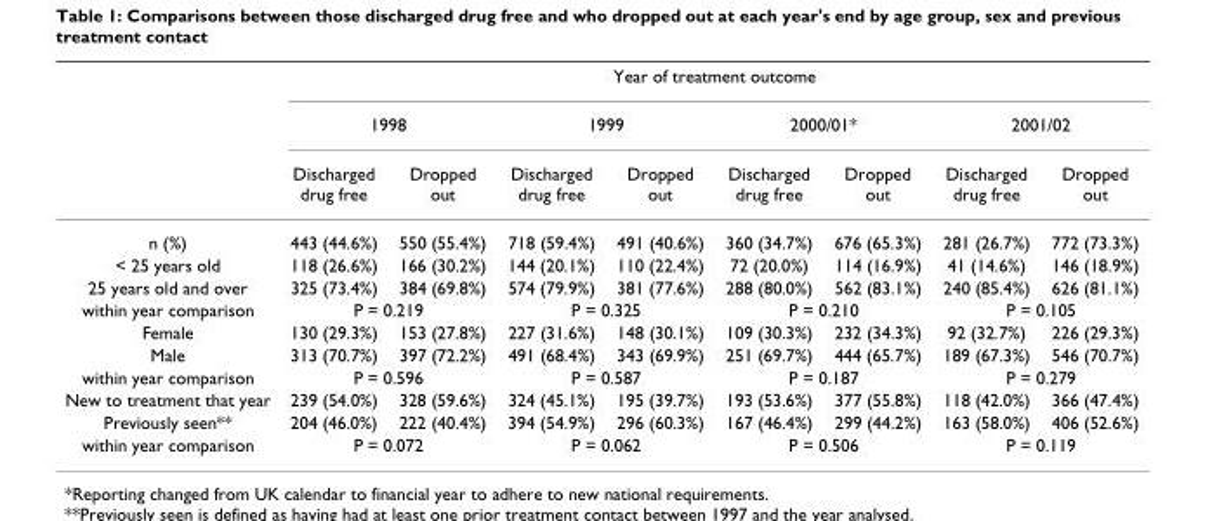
<table><thead><tr><td rowspan="3"></td><td colspan="8">Year of treatment outcome</td></tr><tr><td colspan="2">1998</td><td colspan="2">1999</td><td colspan="2">2000/01*</td><td colspan="2">2001/02</td></tr><tr><td>Discharged drug free</td><td>Dropped out</td><td>Discharged drug free</td><td>Dropped out</td><td>Discharged drug free</td><td>Dropped out</td><td>Discharged drug free</td><td>Dropped out</td></tr></thead><tbody><tr><td>n (%)</td><td>443 (44.6%)</td><td>550 (55.4%)</td><td>718 (59.4%)</td><td>491 (40.6%)</td><td>360 (34.7%)</td><td>676 (65.3%)</td><td>281 (26.7%)</td><td>772 (73.3%)</td></tr><tr><td>&lt; 25 years old</td><td>118 (26.6%)</td><td>166 (30.2%)</td><td>144 (20.1%)</td><td>110 (22.4%)</td><td>72 (20.0%)</td><td>114 (16.9%)</td><td>41 (14.6%)</td><td>146 (18.9%)</td></tr><tr><td>25 years old and over</td><td>325 (73.4%)</td><td>384 (69.8%)</td><td>574 (79.9%)</td><td>381 (77.6%)</td><td>288 (80.0%)</td><td>562 (83.1%)</td><td>240 (85.4%)</td><td>626 (81.1%)</td></tr><tr><td>within year comparison</td><td colspan="2">P = 0.219</td><td colspan="2">P = 0.325</td><td colspan="2">P = 0.210</td><td colspan="2">P = 0.105</td></tr><tr><td>Female</td><td>130 (29.3%)</td><td>153 (27.8%)</td><td>227 (31.6%)</td><td>148 (30.1%)</td><td>109 (30.3%)</td><td>232 (34.3%)</td><td>92 (32.7%)</td><td>226 (29.3%)</td></tr><tr><td>Male</td><td>313 (70.7%)</td><td>397 (72.2%)</td><td>491 (68.4%)</td><td>343 (69.9%)</td><td>251 (69.7%)</td><td>444 (65.7%)</td><td>189 (67.3%)</td><td>546 (70.7%)</td></tr><tr><td>within year comparison</td><td colspan="2">P = 0.596</td><td colspan="2">P = 0.587</td><td colspan="2">P = 0.187</td><td colspan="2">P = 0.279</td></tr><tr><td>New to treatment that year</td><td>239 (54.0%)</td><td>328 (59.6%)</td><td>324 (45.1%)</td><td>195 (39.7%)</td><td>193 (53.6%)</td><td>377 (55.8%)</td><td>118 (42.0%)</td><td>366 (47.4%)</td></tr><tr><td>Previously seen**</td><td>204 (46.0%)</td><td>222 (40.4%)</td><td>394 (54.9%)</td><td>296 (60.3%)</td><td>167 (46.4%)</td><td>299 (44.2%)</td><td>163 (58.0%)</td><td>406 (52.6%)</td></tr><tr><td>within year comparison</td><td colspan="2">P = 0.072</td><td colspan="2">P = 0.062</td><td colspan="2">P = 0.506</td><td colspan="2">P = 0.119</td></tr></tbody></table>